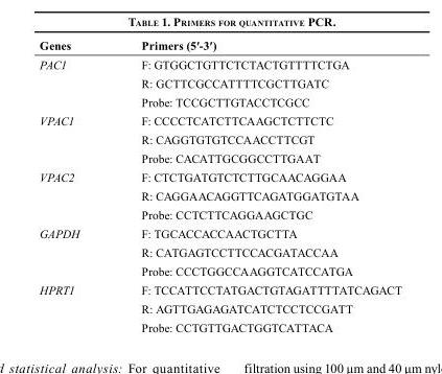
<table><thead><tr><td>Genes</td><td>Primers (5′-3′)</td></tr></thead><tbody><tr><td rowspan="3">PAC1</td><td>F: GTGGCTGTTCTCTACTGTTTTCTGA</td></tr><tr><td>R: GCTTCGCCATTTTCGCTTGATC</td></tr><tr><td>Probe: TCCGCTTGTACCTCGCC</td></tr><tr><td rowspan="3">VPAC1</td><td>F: CCCCTCATCTTCAAGCTCTTCTC</td></tr><tr><td>R: CAGGTGTGTCCAACCTTCGT</td></tr><tr><td>Probe: CACATTGCGGCCTTGAAT</td></tr><tr><td rowspan="3">VPAC2</td><td>F: CTCTGATGTCTCTTGCAACAGGAA</td></tr><tr><td>R: CAGGAACAGGTTCAGATGGATGTAA</td></tr><tr><td>Probe: CCTCTTCAGGAAGCTGC</td></tr><tr><td rowspan="3">GAPDH</td><td>F: TGCACCACCAACTGCTTA</td></tr><tr><td>R: CATGAGTCCTTCCACGATACCAA</td></tr><tr><td>Probe: CCCTGGCCAAGGTCATCCATGA</td></tr><tr><td rowspan="3">HPRT1</td><td>F: TCCATTCCTATGACTGTAGATTTTATCAGACT</td></tr><tr><td>R: AGTTGAGAGATCATCTCCTCCGATT</td></tr><tr><td>Probe: CCTGTTGACTGGTCATTACA</td></tr></tbody></table>